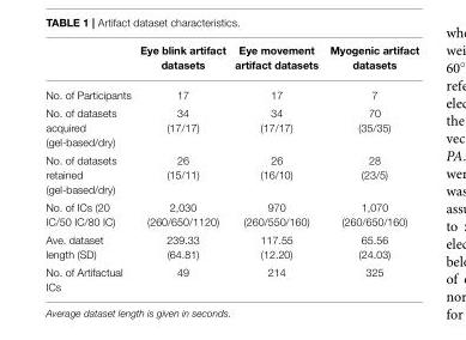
<table><thead><tr><td></td><td>Eye blink artifact datasets</td><td>Eye movement artifact datasets</td><td>Myogenic artifact datasets</td></tr></thead><tbody><tr><td>No. of Participants</td><td>17</td><td>17</td><td>7</td></tr><tr><td>No. of datasets acquired (gel-based/dry)</td><td>34 (17/17)</td><td>34 (17/17)</td><td>70 (35/35)</td></tr><tr><td>No. of datasets retained (gel-based/dry)</td><td>26 (15/11)</td><td>26 (16/10)</td><td>28 (23/5)</td></tr><tr><td>No. of ICs (20 IC/50 IC/80 IC)</td><td>2,030 (260/650/1120)</td><td>970 (260/550/160)</td><td>1,070 (260/650/160)</td></tr><tr><td>Ave. dataset length (SD)</td><td>239.33 (64.81)</td><td>117.55 (12.20)</td><td>65.56 (24.03)</td></tr><tr><td>No. of Artifactual ICs</td><td>49</td><td>214</td><td>325</td></tr></tbody></table>